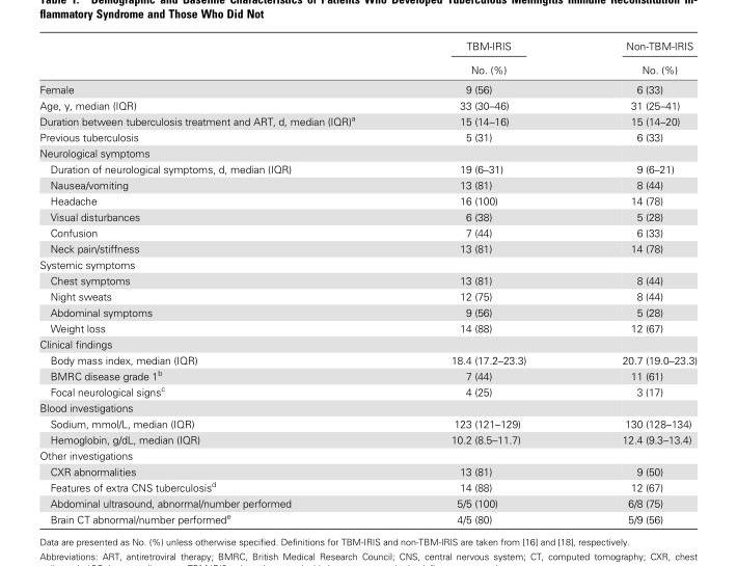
<table><thead><tr><td rowspan="2"></td><td rowspan="2">TBM-IRIS No. (%)</td><td rowspan="2">Non-TBM-IRIS No. (%)</td></tr><tr></tr></thead><tbody><tr><td>Female</td><td>9 (56)</td><td>6 (33)</td></tr><tr><td>Age, y, median (IQR)</td><td>33 (30–46)</td><td>31 (25–41)</td></tr><tr><td>Duration between tuberculosis treatment and ART, d, median (IQR)<sup>a</sup></td><td>15 (14–16)</td><td>15 (14–20)</td></tr><tr><td>Previous tuberculosis</td><td>5 (31)</td><td>6 (33)</td></tr><tr><td colspan="3">Neurological symptoms</td></tr><tr><td>Duration of neurological symptoms, d, median (IQR)</td><td>19 (6–31)</td><td>9 (6–21)</td></tr><tr><td>Nausea/vomiting</td><td>13 (81)</td><td>8 (44)</td></tr><tr><td>Headache</td><td>16 (100)</td><td>14 (78)</td></tr><tr><td>Visual disturbances</td><td>6 (38)</td><td>5 (28)</td></tr><tr><td>Confusion</td><td>7 (44)</td><td>6 (33)</td></tr><tr><td>Neck pain/stiffness</td><td>13 (81)</td><td>14 (78)</td></tr><tr><td colspan="3">Systemic symptoms</td></tr><tr><td>Chest symptoms</td><td>13 (81)</td><td>8 (44)</td></tr><tr><td>Night sweats</td><td>12 (75)</td><td>8 (44)</td></tr><tr><td>Abdominal symptoms</td><td>9 (56)</td><td>5 (28)</td></tr><tr><td>Weight loss</td><td>14 (88)</td><td>12 (67)</td></tr><tr><td colspan="3">Clinical findings</td></tr><tr><td>Body mass index, median (IQR)</td><td>18.4 (17.2–23.3)</td><td>20.7 (19.0–23.3)</td></tr><tr><td>BMRC disease grade 1<sup>b</sup></td><td>7 (44)</td><td>11 (61)</td></tr><tr><td>Focal neurological signs<sup>c</sup></td><td>4 (25)</td><td>3 (17)</td></tr><tr><td colspan="3">Blood investigations</td></tr><tr><td>Sodium, mmol/L, median (IQR)</td><td>123 (121–129)</td><td>130 (128–134)</td></tr><tr><td>Hemoglobin, g/dL, median (IQR)</td><td>10.2 (8.5–11.7)</td><td>12.4 (9.3–13.4)</td></tr><tr><td colspan="3">Other investigations</td></tr><tr><td>CXR abnormalities</td><td>13 (81)</td><td>9 (50)</td></tr><tr><td>Features of extra CNS tuberculosis<sup>d</sup></td><td>14 (88)</td><td>12 (67)</td></tr><tr><td>Abdominal ultrasound, abnormal/number performed</td><td>5/5 (100)</td><td>6/8 (75)</td></tr><tr><td>Brain CT abnormal/number performed<sup>e</sup></td><td>4/5 (80)</td><td>5/9 (56)</td></tr></tbody></table>